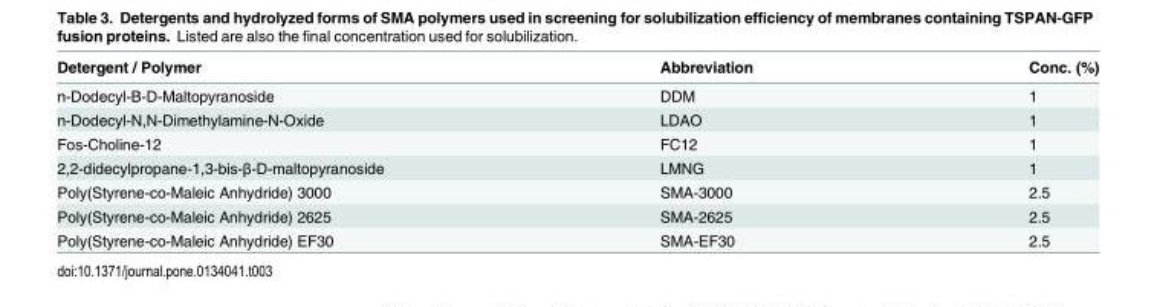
<table><thead><tr><td>Detergent / Polymer</td><td>Abbreviation</td><td>Conc. (%)</td></tr></thead><tbody><tr><td>n-Dodecyl-B-D-Maltopyranoside</td><td>DDM</td><td>1</td></tr><tr><td>n-Dodecyl-N,N-Dimethylamine-N-Oxide</td><td>LDAO</td><td>1</td></tr><tr><td>Fos-Choline-12</td><td>FC12</td><td>1</td></tr><tr><td>2,2-didecylpropane-1,3-bis-β-D-maltopyranoside</td><td>LMNG</td><td>1</td></tr><tr><td>Poly(Styrene-co-Maleic Anhydride) 3000</td><td>SMA-3000</td><td>2.5</td></tr><tr><td>Poly(Styrene-co-Maleic Anhydride) 2625</td><td>SMA-2625</td><td>2.5</td></tr><tr><td>Poly(Styrene-co-Maleic Anhydride) EF30</td><td>SMA-EF30</td><td>2.5</td></tr></tbody></table>